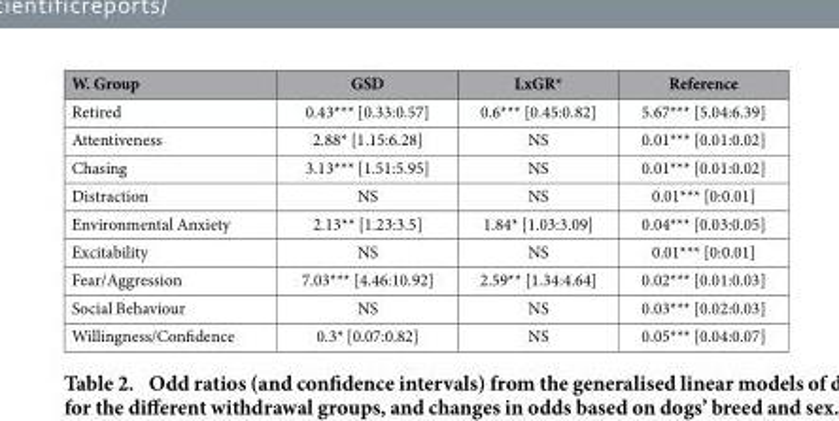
<table><thead><tr><td>W. Group</td><td>GSD</td><td>LxGR*</td><td>Reference</td></tr></thead><tbody><tr><td>Retired</td><td>0.43*** [0.33:0.57]</td><td>0.6*** [0.45:0.82]</td><td>5.67*** [5.04:6.39]</td></tr><tr><td>Attentiveness</td><td>2.88* [1.15:6.28]</td><td>NS</td><td>0.01*** [0.01:0.02]</td></tr><tr><td>Chasing</td><td>3.13*** [1.51:5.95]</td><td>NS</td><td>0.01*** [0.01:0.02]</td></tr><tr><td>Distraction</td><td>NS</td><td>NS</td><td>0.01*** [0:0.01]</td></tr><tr><td>Environmental Anxiety</td><td>2.13** [1.23:3.5]</td><td>1.84* [1.03:3.09]</td><td>0.04*** [0.03:0.05]</td></tr><tr><td>Excitability</td><td>NS</td><td>NS</td><td>0.01*** [0:0.01]</td></tr><tr><td>Fear/Aggression</td><td>7.03*** [4.46:10.92]</td><td>2.59** [1.34:4.64]</td><td>0.02*** [0.01:0.03]</td></tr><tr><td>Social Behaviour</td><td>NS</td><td>NS</td><td>0.03*** [0.02:0.03]</td></tr><tr><td>Willingness/Confidence</td><td>0.3* [0.07:0.82]</td><td>NS</td><td>0.05*** [0.04:0.07]</td></tr></tbody></table>